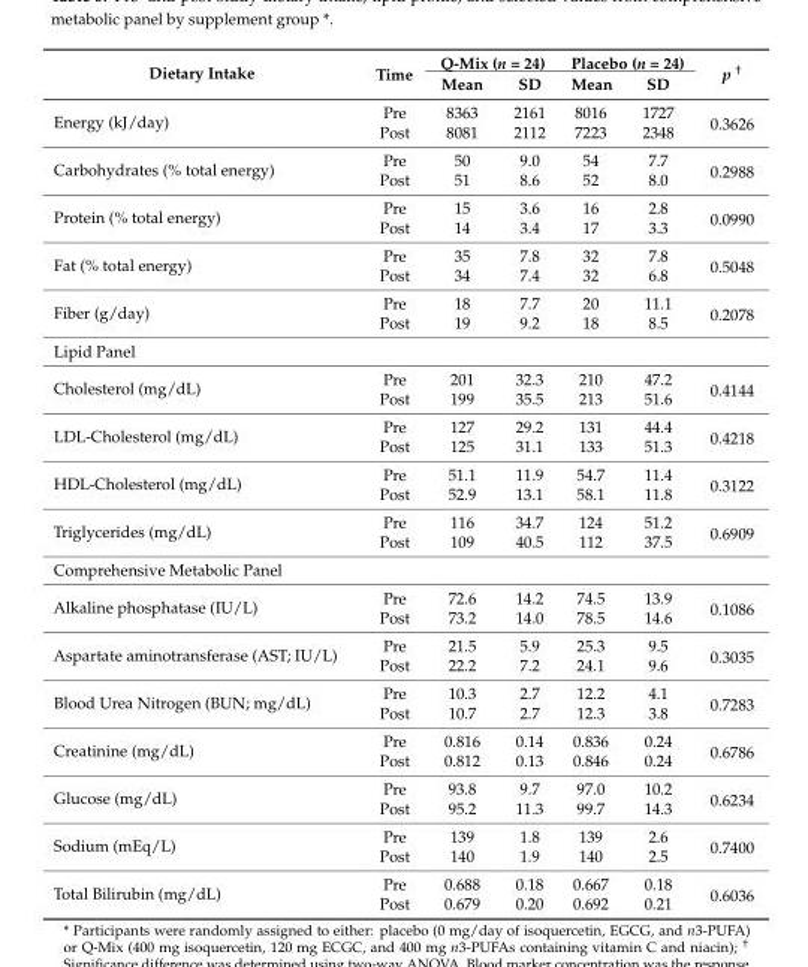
<table><thead><tr><td rowspan="2">Dietary Intake</td><td rowspan="2">Time</td><td colspan="2">Q-Mix (n = 24)</td><td colspan="2">Placebo (n = 24)</td><td rowspan="2">p <sup>†</sup></td></tr><tr><td>Mean</td><td>SD</td><td>Mean</td><td>SD</td></tr></thead><tbody><tr><td rowspan="2">Energy (kJ/day)</td><td>Pre</td><td>8363</td><td>2161</td><td>8016</td><td>1727</td><td rowspan="2">0.3626</td></tr><tr><td>Post</td><td>8081</td><td>2112</td><td>7223</td><td>2348</td></tr><tr><td rowspan="2">Carbohydrates (% total energy)</td><td>Pre</td><td>50</td><td>9.0</td><td>54</td><td>7.7</td><td rowspan="2">0.2988</td></tr><tr><td>Post</td><td>51</td><td>8.6</td><td>52</td><td>8.0</td></tr><tr><td rowspan="2">Protein (% total energy)</td><td>Pre</td><td>15</td><td>3.6</td><td>16</td><td>2.8</td><td rowspan="2">0.0990</td></tr><tr><td>Post</td><td>14</td><td>3.4</td><td>17</td><td>3.3</td></tr><tr><td rowspan="2">Fat (% total energy)</td><td>Pre</td><td>35</td><td>7.8</td><td>32</td><td>7.8</td><td rowspan="2">0.5048</td></tr><tr><td>Post</td><td>34</td><td>7.4</td><td>32</td><td>6.8</td></tr><tr><td rowspan="2">Fiber (g/day)</td><td>Pre</td><td>18</td><td>7.7</td><td>20</td><td>11.1</td><td rowspan="2">0.2078</td></tr><tr><td>Post</td><td>19</td><td>9.2</td><td>18</td><td>8.5</td></tr><tr><td colspan="7">Lipid Panel</td></tr><tr><td rowspan="2">Cholesterol (mg/dL)</td><td>Pre</td><td>201</td><td>32.3</td><td>210</td><td>47.2</td><td rowspan="2">0.4144</td></tr><tr><td>Post</td><td>199</td><td>35.5</td><td>213</td><td>51.6</td></tr><tr><td rowspan="2">LDL-Cholesterol (mg/dL)</td><td>Pre</td><td>127</td><td>29.2</td><td>131</td><td>44.4</td><td rowspan="2">0.4218</td></tr><tr><td>Post</td><td>125</td><td>31.1</td><td>133</td><td>51.3</td></tr><tr><td rowspan="2">HDL-Cholesterol (mg/dL)</td><td>Pre</td><td>51.1</td><td>11.9</td><td>54.7</td><td>11.4</td><td rowspan="2">0.3122</td></tr><tr><td>Post</td><td>52.9</td><td>13.1</td><td>58.1</td><td>11.8</td></tr><tr><td rowspan="2">Triglycerides (mg/dL)</td><td>Pre</td><td>116</td><td>34.7</td><td>124</td><td>51.2</td><td rowspan="2">0.6909</td></tr><tr><td>Post</td><td>109</td><td>40.5</td><td>112</td><td>37.5</td></tr><tr><td colspan="7">Comprehensive Metabolic Panel</td></tr><tr><td rowspan="2">Alkaline phosphatase (IU/L)</td><td>Pre</td><td>72.6</td><td>14.2</td><td>74.5</td><td>13.9</td><td rowspan="2">0.1086</td></tr><tr><td>Post</td><td>73.2</td><td>14.0</td><td>78.5</td><td>14.6</td></tr><tr><td rowspan="2">Aspartate aminotransferase (AST; IU/L)</td><td>Pre</td><td>21.5</td><td>5.9</td><td>25.3</td><td>9.5</td><td rowspan="2">0.3035</td></tr><tr><td>Post</td><td>22.2</td><td>7.2</td><td>24.1</td><td>9.6</td></tr><tr><td rowspan="2">Blood Urea Nitrogen (BUN; mg/dL)</td><td>Pre</td><td>10.3</td><td>2.7</td><td>12.2</td><td>4.1</td><td rowspan="2">0.7283</td></tr><tr><td>Post</td><td>10.7</td><td>2.7</td><td>12.3</td><td>3.8</td></tr><tr><td rowspan="2">Creatinine (mg/dL)</td><td>Pre</td><td>0.816</td><td>0.14</td><td>0.836</td><td>0.24</td><td rowspan="2">0.6786</td></tr><tr><td>Post</td><td>0.812</td><td>0.13</td><td>0.846</td><td>0.24</td></tr><tr><td rowspan="2">Glucose (mg/dL)</td><td>Pre</td><td>93.8</td><td>9.7</td><td>97.0</td><td>10.2</td><td rowspan="2">0.6234</td></tr><tr><td>Post</td><td>95.2</td><td>11.3</td><td>99.7</td><td>14.3</td></tr><tr><td rowspan="2">Sodium (mEq/L)</td><td>Pre</td><td>139</td><td>1.8</td><td>139</td><td>2.6</td><td rowspan="2">0.7400</td></tr><tr><td>Post</td><td>140</td><td>1.9</td><td>140</td><td>2.5</td></tr><tr><td rowspan="2">Total Bilirubin (mg/dL)</td><td>Pre</td><td>0.688</td><td>0.18</td><td>0.667</td><td>0.18</td><td rowspan="2">0.6036</td></tr><tr><td>Post</td><td>0.679</td><td>0.20</td><td>0.692</td><td>0.21</td></tr></tbody></table>